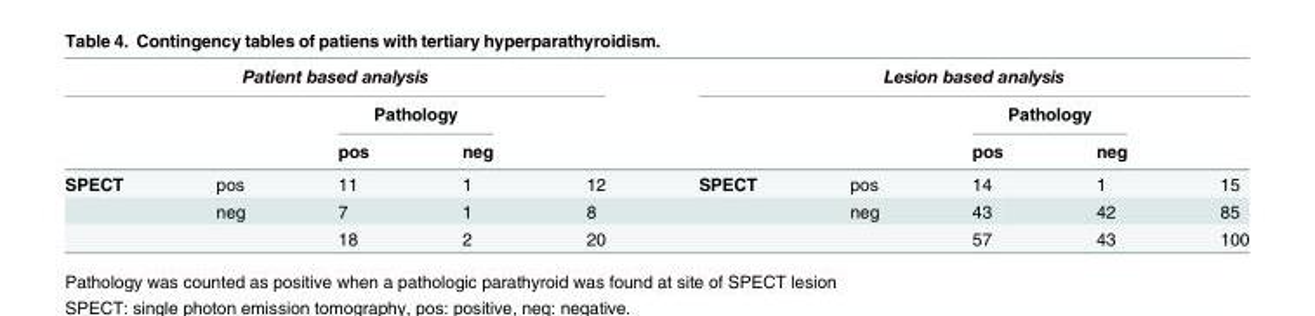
<table><thead><tr><td colspan="5">Patient based analysis</td><td colspan="5">Lesion based analysis</td></tr><tr><td rowspan="2"></td><td rowspan="2"></td><td colspan="2">Pathology</td><td rowspan="2"></td><td rowspan="2"></td><td rowspan="2"></td><td colspan="2">Pathology</td><td rowspan="2"></td></tr><tr><td>pos</td><td>neg</td><td>pos</td><td>neg</td></tr></thead><tbody><tr><td rowspan="3">SPECT</td><td>pos</td><td>11</td><td>1</td><td>12</td><td>SPECT</td><td>pos</td><td>14</td><td>1</td><td>15</td></tr><tr><td>neg</td><td>7</td><td>1</td><td>8</td><td></td><td>neg</td><td>43</td><td>42</td><td>85</td></tr><tr><td></td><td>18</td><td>2</td><td>20</td><td></td><td></td><td>57</td><td>43</td><td>100</td></tr></tbody></table>